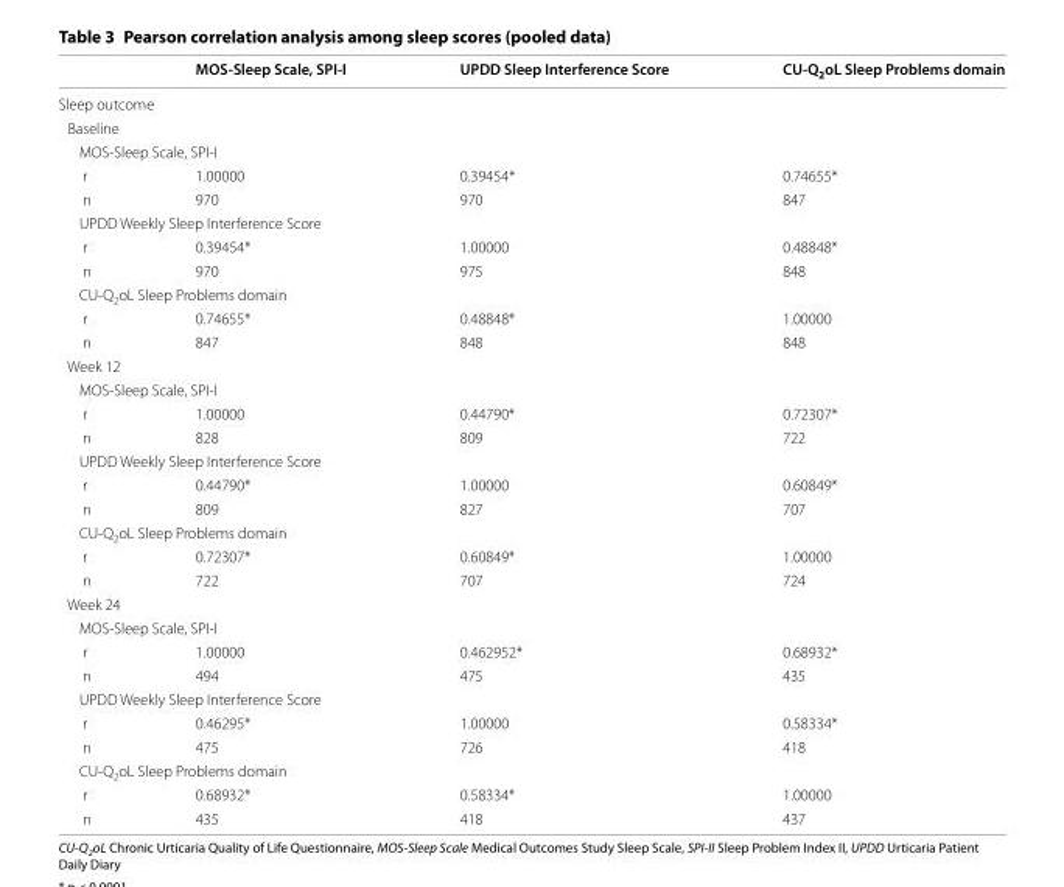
<table><thead><tr><td></td><td>MOS‑Sleep Scale, SPI‑I</td><td>UPDD Sleep Interference Score</td><td>CU‑Q<sub>2</sub>oL Sleep Problems domain</td></tr></thead><tbody><tr><td colspan="4">Sleep outcome</td></tr><tr><td colspan="4">Baseline</td></tr><tr><td colspan="4">MOS‑Sleep Scale, SPI‑I</td></tr><tr><td>r</td><td>1.00000</td><td>0.39454*</td><td>0.74655*</td></tr><tr><td>n</td><td>970</td><td>970</td><td>847</td></tr><tr><td colspan="4">UPDD Weekly Sleep Interference Score</td></tr><tr><td>r</td><td>0.39454*</td><td>1.00000</td><td>0.48848*</td></tr><tr><td>n</td><td>970</td><td>975</td><td>848</td></tr><tr><td colspan="4">CU‑Q<sub>2</sub>oL Sleep Problems domain</td></tr><tr><td>r</td><td>0.74655*</td><td>0.48848*</td><td>1.00000</td></tr><tr><td>n</td><td>847</td><td>848</td><td>848</td></tr><tr><td colspan="4">Week 12</td></tr><tr><td colspan="4">MOS‑Sleep Scale, SPI‑I</td></tr><tr><td>r</td><td>1.00000</td><td>0.44790*</td><td>0.72307*</td></tr><tr><td>n</td><td>828</td><td>809</td><td>722</td></tr><tr><td colspan="4">UPDD Weekly Sleep Interference Score</td></tr><tr><td>r</td><td>0.44790*</td><td>1.00000</td><td>0.60849*</td></tr><tr><td>n</td><td>809</td><td>827</td><td>707</td></tr><tr><td colspan="4">CU‑Q<sub>2</sub>oL Sleep Problems domain</td></tr><tr><td>r</td><td>0.72307*</td><td>0.60849*</td><td>1.00000</td></tr><tr><td>n</td><td>722</td><td>707</td><td>724</td></tr><tr><td colspan="4">Week 24</td></tr><tr><td colspan="4">MOS‑Sleep Scale, SPI‑I</td></tr><tr><td>r</td><td>1.00000</td><td>0.462952*</td><td>0.68932*</td></tr><tr><td>n</td><td>494</td><td>475</td><td>435</td></tr><tr><td colspan="4">UPDD Weekly Sleep Interference Score</td></tr><tr><td>r</td><td>0.46295*</td><td>1.00000</td><td>0.58334*</td></tr><tr><td>n</td><td>475</td><td>726</td><td>418</td></tr><tr><td colspan="4">CU‑Q<sub>2</sub>oL Sleep Problems domain</td></tr><tr><td>r</td><td>0.68932*</td><td>0.58334*</td><td>1.00000</td></tr><tr><td>n</td><td>435</td><td>418</td><td>437</td></tr></tbody></table>